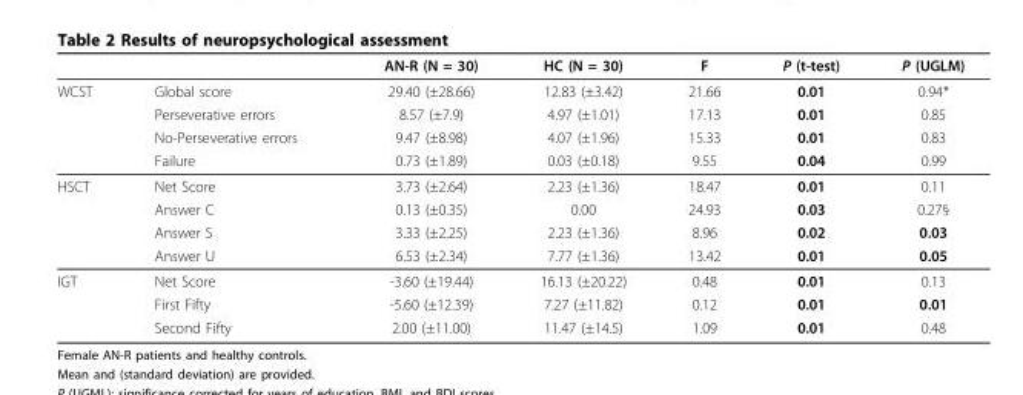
<table><thead><tr><td></td><td></td><td>AN-R (N = 30)</td><td>HC (N = 30)</td><td>F</td><td>P (t-test)</td><td>P (UGLM)</td></tr></thead><tbody><tr><td rowspan="4">WCST</td><td>Global score</td><td>29.40 (±28.66)</td><td>12.83 (±3.42)</td><td>21.66</td><td>0.01</td><td>0.94*</td></tr><tr><td>Perseverative errors</td><td>8.57 (±7.9)</td><td>4.97 (±1.01)</td><td>17.13</td><td>0.01</td><td>0.85</td></tr><tr><td>No-Perseverative errors</td><td>9.47 (±8.98)</td><td>4.07 (±1.96)</td><td>15.33</td><td>0.01</td><td>0.83</td></tr><tr><td>Failure</td><td>0.73 (±1.89)</td><td>0.03 (±0.18)</td><td>9.55</td><td>0.04</td><td>0.99</td></tr><tr><td rowspan="4">HSCT</td><td>Net Score</td><td>3.73 (±2.64)</td><td>2.23 (±1.36)</td><td>18.47</td><td>0.01</td><td>0.11</td></tr><tr><td>Answer C</td><td>0.13 (±0.35)</td><td>0.00</td><td>24.93</td><td>0.03</td><td>0.27§</td></tr><tr><td>Answer S</td><td>3.33 (±2.25)</td><td>2.23 (±1.36)</td><td>8.96</td><td>0.02</td><td>0.03</td></tr><tr><td>Answer U</td><td>6.53 (±2.34)</td><td>7.77 (±1.36)</td><td>13.42</td><td>0.01</td><td>0.05</td></tr><tr><td rowspan="3">IGT</td><td>Net Score</td><td>-3.60 (±19.44)</td><td>16.13 (±20.22)</td><td>0.48</td><td>0.01</td><td>0.13</td></tr><tr><td>First Fifty</td><td>-5.60 (±12.39)</td><td>7.27 (±11.82)</td><td>0.12</td><td>0.01</td><td>0.01</td></tr><tr><td>Second Fifty</td><td>2.00 (±11.00)</td><td>11.47 (±14.5)</td><td>1.09</td><td>0.01</td><td>0.48</td></tr></tbody></table>